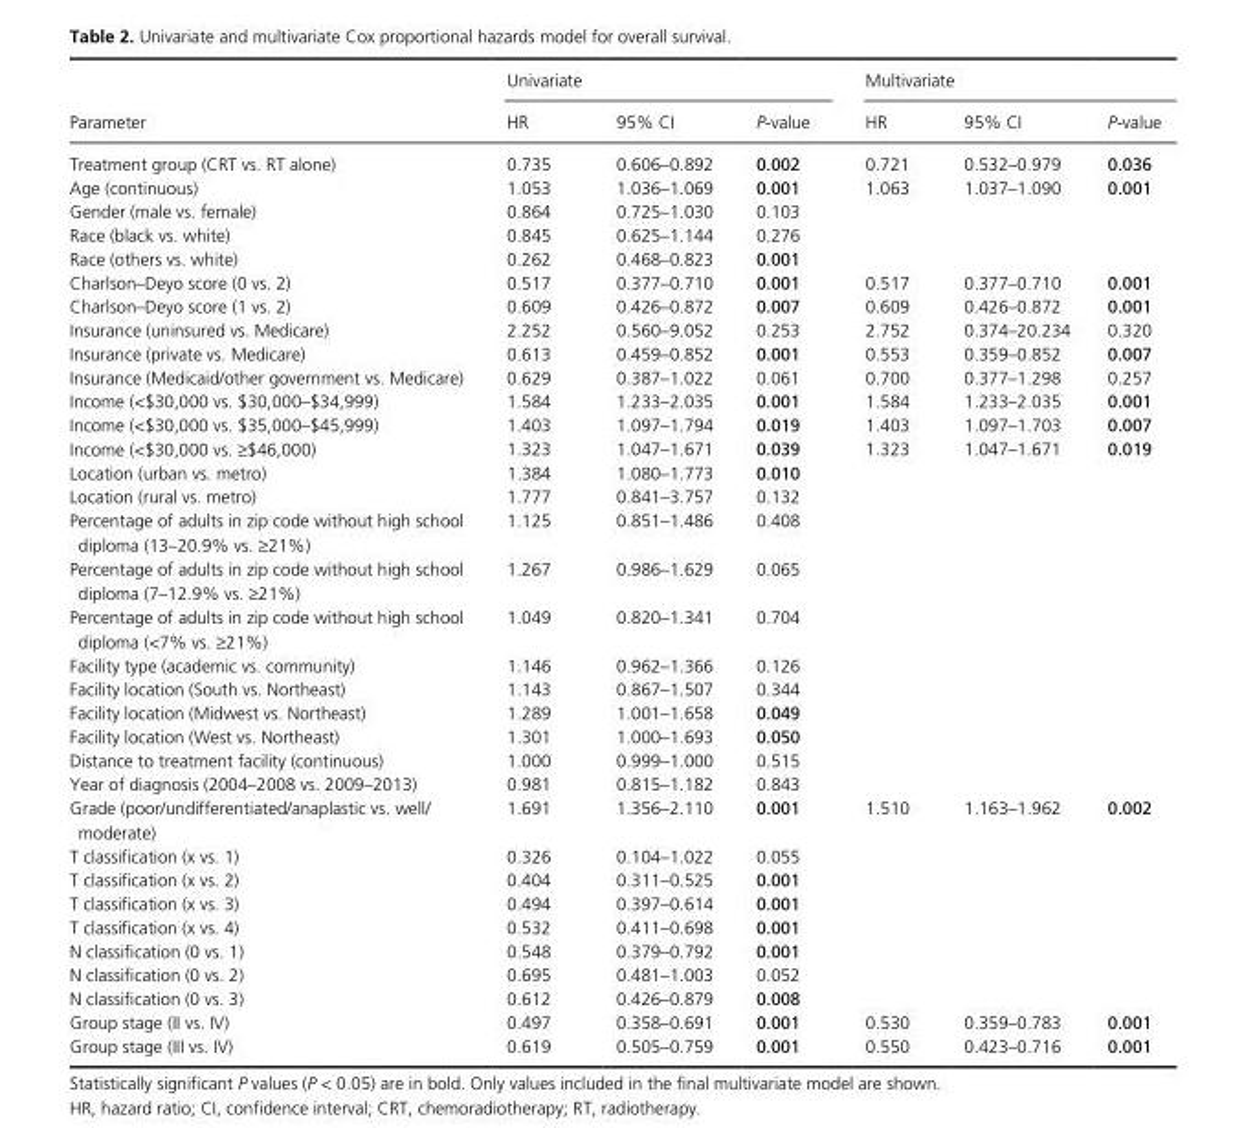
<table><thead><tr><td rowspan="2">Parameter</td><td colspan="3">Univariate</td><td colspan="3">Multivariate</td></tr><tr><td>HR</td><td>95% CI</td><td>P- value</td><td>HR</td><td>95% CI</td><td>P- value</td></tr></thead><tbody><tr><td>Treatment group (CRT vs. RT alone)</td><td>0.735</td><td>0.606–0.892</td><td>0.002</td><td>0.721</td><td>0.532–0.979</td><td>0.036</td></tr><tr><td>Age (continuous)</td><td>1.053</td><td>1.036–1.069</td><td>0.001</td><td>1.063</td><td>1.037–1.090</td><td>0.001</td></tr><tr><td>Gender (male vs. female)</td><td>0.864</td><td>0.725–1.030</td><td>0.103</td><td></td><td></td><td></td></tr><tr><td>Race (black vs. white)</td><td>0.845</td><td>0.625–1.144</td><td>0.276</td><td></td><td></td><td></td></tr><tr><td>Race (others vs. white)</td><td>0.262</td><td>0.468–0.823</td><td>0.001</td><td></td><td></td><td></td></tr><tr><td>Charlson–Deyo score (0 vs. 2)</td><td>0.517</td><td>0.377–0.710</td><td>0.001</td><td>0.517</td><td>0.377–0.710</td><td>0.001</td></tr><tr><td>Charlson–Deyo score (1 vs. 2)</td><td>0.609</td><td>0.426–0.872</td><td>0.007</td><td>0.609</td><td>0.426–0.872</td><td>0.001</td></tr><tr><td>Insurance (uninsured vs. Medicare)</td><td>2.252</td><td>0.560–9.052</td><td>0.253</td><td>2.752</td><td>0.374–20.234</td><td>0.320</td></tr><tr><td>Insurance (private vs. Medicare)</td><td>0.613</td><td>0.459–0.852</td><td>0.001</td><td>0.553</td><td>0.359–0.852</td><td>0.007</td></tr><tr><td>Insurance (Medicaid/other government vs. Medicare)</td><td>0.629</td><td>0.387–1.022</td><td>0.061</td><td>0.700</td><td>0.377–1.298</td><td>0.257</td></tr><tr><td>Income (&lt;$30,000 vs. $30,000–$34,999)</td><td>1.584</td><td>1.233–2.035</td><td>0.001</td><td>1.584</td><td>1.233–2.035</td><td>0.001</td></tr><tr><td>Income (&lt;$30,000 vs. $35,000–$45,999)</td><td>1.403</td><td>1.097–1.794</td><td>0.019</td><td>1.403</td><td>1.097–1.703</td><td>0.007</td></tr><tr><td>Income (&lt;$30,000 vs. ≥$46,000)</td><td>1.323</td><td>1.047–1.671</td><td>0.039</td><td>1.323</td><td>1.047–1.671</td><td>0.019</td></tr><tr><td>Location (urban vs. metro)</td><td>1.384</td><td>1.080–1.773</td><td>0.010</td><td></td><td></td><td></td></tr><tr><td>Location (rural vs. metro)</td><td>1.777</td><td>0.841–3.757</td><td>0.132</td><td></td><td></td><td></td></tr><tr><td>Percentage of adults in zip code without high school diploma (13–20.9% vs. ≥21%)</td><td>1.125</td><td>0.851–1.486</td><td>0.408</td><td></td><td></td><td></td></tr><tr><td>Percentage of adults in zip code without high school diploma (7–12.9% vs. ≥21%)</td><td>1.267</td><td>0.986–1.629</td><td>0.065</td><td></td><td></td><td></td></tr><tr><td>Percentage of adults in zip code without high school diploma (&lt;7% vs. ≥21%)</td><td>1.049</td><td>0.820–1.341</td><td>0.704</td><td></td><td></td><td></td></tr><tr><td>Facility type (academic vs. community)</td><td>1.146</td><td>0.962–1.366</td><td>0.126</td><td></td><td></td><td></td></tr><tr><td>Facility location (South vs. Northeast)</td><td>1.143</td><td>0.867–1.507</td><td>0.344</td><td></td><td></td><td></td></tr><tr><td>Facility location (Midwest vs. Northeast)</td><td>1.289</td><td>1.001–1.658</td><td>0.049</td><td></td><td></td><td></td></tr><tr><td>Facility location (West vs. Northeast)</td><td>1.301</td><td>1.000–1.693</td><td>0.050</td><td></td><td></td><td></td></tr><tr><td>Distance to treatment facility (continuous)</td><td>1.000</td><td>0.999–1.000</td><td>0.515</td><td></td><td></td><td></td></tr><tr><td>Year of diagnosis (2004–2008 vs. 2009–2013)</td><td>0.981</td><td>0.815–1.182</td><td>0.843</td><td></td><td></td><td></td></tr><tr><td>Grade (poor/undifferentiated/anaplastic vs. well/ moderate)</td><td>1.691</td><td>1.356–2.110</td><td>0.001</td><td>1.510</td><td>1.163–1.962</td><td>0.002</td></tr><tr><td>T classification (x vs. 1)</td><td>0.326</td><td>0.104–1.022</td><td>0.055</td><td></td><td></td><td></td></tr><tr><td>T classification (x vs. 2)</td><td>0.404</td><td>0.311–0.525</td><td>0.001</td><td></td><td></td><td></td></tr><tr><td>T classification (x vs. 3)</td><td>0.494</td><td>0.397–0.614</td><td>0.001</td><td></td><td></td><td></td></tr><tr><td>T classification (x vs. 4)</td><td>0.532</td><td>0.411–0.698</td><td>0.001</td><td></td><td></td><td></td></tr><tr><td>N classification (0 vs. 1)</td><td>0.548</td><td>0.379–0.792</td><td>0.001</td><td></td><td></td><td></td></tr><tr><td>N classification (0 vs. 2)</td><td>0.695</td><td>0.481–1.003</td><td>0.052</td><td></td><td></td><td></td></tr><tr><td>N classification (0 vs. 3)</td><td>0.612</td><td>0.426–0.879</td><td>0.008</td><td></td><td></td><td></td></tr><tr><td>Group stage (II vs. IV)</td><td>0.497</td><td>0.358–0.691</td><td>0.001</td><td>0.530</td><td>0.359–0.783</td><td>0.001</td></tr><tr><td>Group stage (III vs. IV)</td><td>0.619</td><td>0.505–0.759</td><td>0.001</td><td>0.550</td><td>0.423–0.716</td><td>0.001</td></tr></tbody></table>